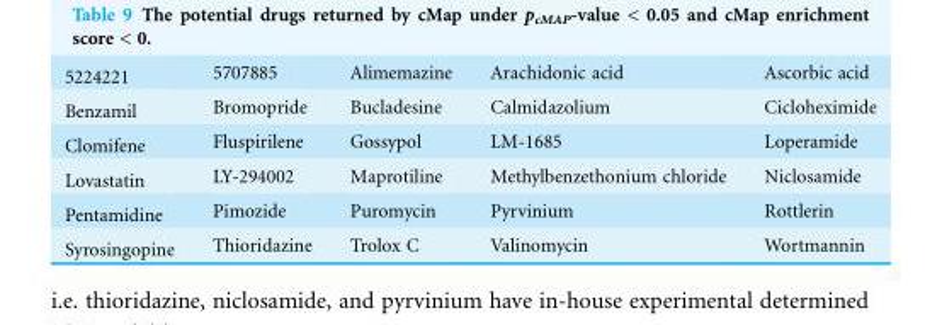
<table><tbody><tr><td>5224221</td><td>5707885</td><td>Alimemazine</td><td>Arachidonic acid</td><td>Ascorbic acid</td></tr><tr><td>Benzamil</td><td>Bromopride</td><td>Bucladesine</td><td>Calmidazolium</td><td>Cicloheximide</td></tr><tr><td>Clomifene</td><td>Fluspirilene</td><td>Gossypol</td><td>LM-1685</td><td>Loperamide</td></tr><tr><td>Lovastatin</td><td>LY-294002</td><td>Maprotiline</td><td>Methylbenzethonium chloride</td><td>Niclosamide</td></tr><tr><td>Pentamidine</td><td>Pimozide</td><td>Puromycin</td><td>Pyrvinium</td><td>Rottlerin</td></tr><tr><td>Syrosingopine</td><td>Thioridazine</td><td>Trolox C</td><td>Valinomycin</td><td>Wortmannin</td></tr></tbody></table>